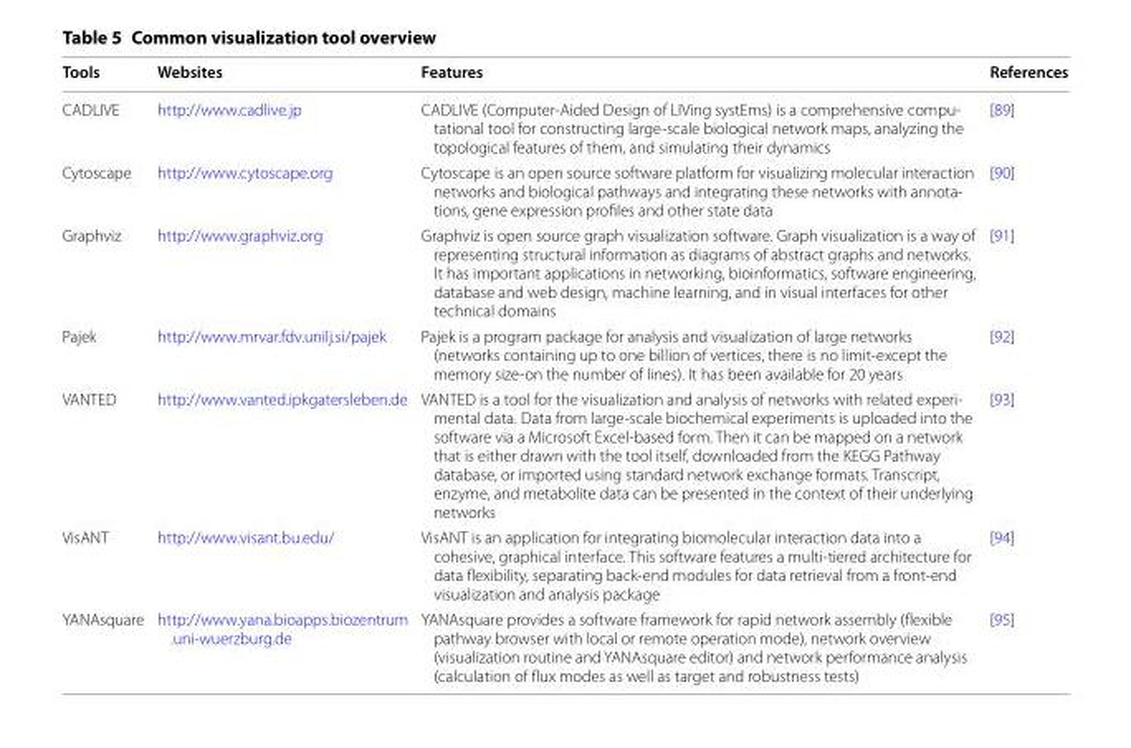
<table><thead><tr><td>Tools</td><td>Websites</td><td>Features</td><td>References</td></tr></thead><tbody><tr><td>CADLIVE</td><td>http://www.cadli ve.jp</td><td>CADLIVE (Computer‑Aided Design of LIVing systEms) is a comprehensive compu‑ tational tool for constructing large‑scale biological network maps, analyzing the topological features of them, and simulating their dynamics</td><td>[89]</td></tr><tr><td>Cytoscape</td><td>http://www.cytos cape.org</td><td>Cytoscape is an open source software platform for visualizing molecular interaction networks and biological pathways and integrating these networks with annota‑ tions, gene expression profiles and other state data</td><td>[90]</td></tr><tr><td>Graphviz</td><td>http://www.graph viz.org</td><td>Graphviz is open source graph visualization software. Graph visualization is a way of representing structural information as diagrams of abstract graphs and networks. It has important applications in networking, bioinformatics, software engineering, database and web design, machine learning, and in visual interfaces for other technical domains</td><td>[91]</td></tr><tr><td>Pajek</td><td>http://www.mrvar .fdv.unilj .si/pajek</td><td>Pajek is a program package for analysis and visualization of large networks (networks containing up to one billion of vertices, there is no limit‑except the memory size‑on the number of lines). It has been available for 20 years</td><td>[92]</td></tr><tr><td>VANTED</td><td>http://www.vante d.ipkga tersl eben.de</td><td>VANTED is a tool for the visualization and analysis of networks with related experi‑ mental data. Data from large‑scale biochemical experiments is uploaded into the software via a Microsoft Excel‑based form. Then it can be mapped on a network that is either drawn with the tool itself, downloaded from the KEGG Pathway database, or imported using standard network exchange formats. Transcript, enzyme, and metabolite data can be presented in the context of their underlying networks</td><td>[93]</td></tr><tr><td>VisANT</td><td>http://www.visan t.bu.edu/</td><td>VisANT is an application for integrating biomolecular interaction data into a cohesive, graphical interface. This software features a multi‑tiered architecture for data flexibility, separating back‑end modules for data retrieval from a front‑end visualization and analysis package</td><td>[94]</td></tr><tr><td>YANAsquare</td><td>http://www.yana.bioap ps.bioze ntrum .uni‑wuerz burg.de</td><td>YANAsquare provides a software framework for rapid network assembly (flexible pathway browser with local or remote operation mode), network overview (visualization routine and YANAsquare editor) and network performance analysis (calculation of flux modes as well as target and robustness tests)</td><td>[95]</td></tr></tbody></table>